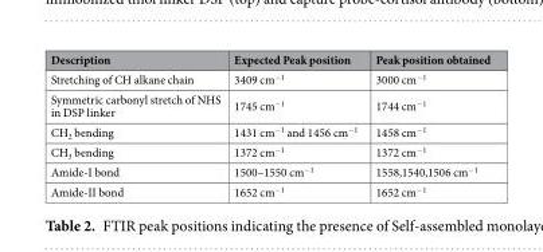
<table><thead><tr><td>Description</td><td>Expected Peak position</td><td>Peak position obtained</td></tr></thead><tbody><tr><td>Stretching of CH alkane chain</td><td>3409 cm<sup>−1</sup></td><td>3000 cm<sup>−1</sup></td></tr><tr><td>Symmetric carbonyl stretch of NHS in DSP linker</td><td>1745 cm<sup>−1</sup></td><td>1744 cm<sup>−1</sup></td></tr><tr><td>CH<sub>2</sub> bending</td><td>1431 cm<sup>−1</sup> and 1456 cm<sup>−1</sup></td><td>1458 cm<sup>−1</sup></td></tr><tr><td>CH<sub>3</sub> bending</td><td>1372 cm<sup>−1</sup></td><td>1372 cm<sup>−1</sup></td></tr><tr><td>Amide-I bond</td><td>1500–1550 cm<sup>−1</sup></td><td>1558,1540,1506 cm<sup>−1</sup></td></tr><tr><td>Amide-II bond</td><td>1652 cm<sup>−1</sup></td><td>1652 cm<sup>−1</sup></td></tr></tbody></table>